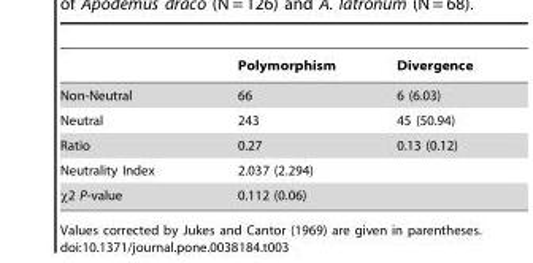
<table><thead><tr><td></td><td>Polymorphism</td><td>Divergence</td></tr></thead><tbody><tr><td>Non-Neutral</td><td>66</td><td>6 (6.03)</td></tr><tr><td>Neutral</td><td>243</td><td>45 (50.94)</td></tr><tr><td>Ratio</td><td>0.27</td><td>0.13 (0.12)</td></tr><tr><td>Neutrality Index</td><td colspan="2">2.037 (2.294)</td></tr><tr><td>χ2 P-value</td><td colspan="2">0.112 (0.06)</td></tr></tbody></table>